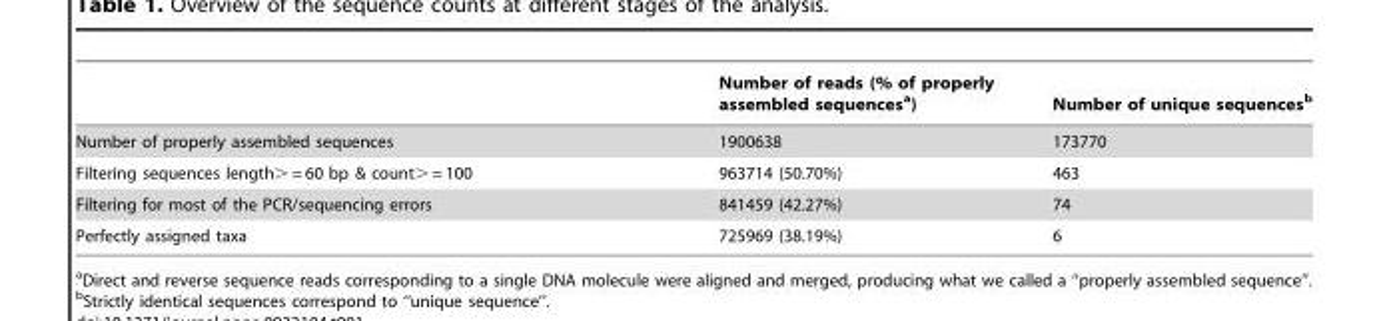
<table><thead><tr><td></td><td>Number of reads (% of properly assembled sequences<sup>a</sup>)</td><td>Number of unique sequences<sup>b</sup></td></tr></thead><tbody><tr><td>Number of properly assembled sequences</td><td>1900638</td><td>173770</td></tr><tr><td>Filtering sequences length&gt; = 60 bp &amp; count&gt; = 100</td><td>963714 (50.70%)</td><td>463</td></tr><tr><td>Filtering for most of the PCR/sequencing errors</td><td>841459 (42.27%)</td><td>74</td></tr><tr><td>Perfectly assigned taxa</td><td>725969 (38.19%)</td><td>6</td></tr></tbody></table>